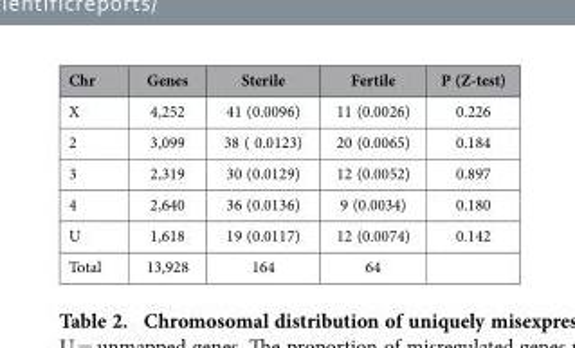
<table><thead><tr><td>Chr</td><td>Genes</td><td>Sterile</td><td>Fertile</td><td>P (Z-test)</td></tr></thead><tbody><tr><td>X</td><td>4,252</td><td>41 (0.0096)</td><td>11 (0.0026)</td><td>0.226</td></tr><tr><td>2</td><td>3,099</td><td>38 ( 0.0123)</td><td>20 (0.0065)</td><td>0.184</td></tr><tr><td>3</td><td>2,319</td><td>30 (0.0129)</td><td>12 (0.0052)</td><td>0.897</td></tr><tr><td>4</td><td>2,640</td><td>36 (0.0136)</td><td>9 (0.0034)</td><td>0.180</td></tr><tr><td>U</td><td>1,618</td><td>19 (0.0117)</td><td>12 (0.0074)</td><td>0.142</td></tr><tr><td>Total</td><td>13,928</td><td>164</td><td>64</td><td></td></tr></tbody></table>